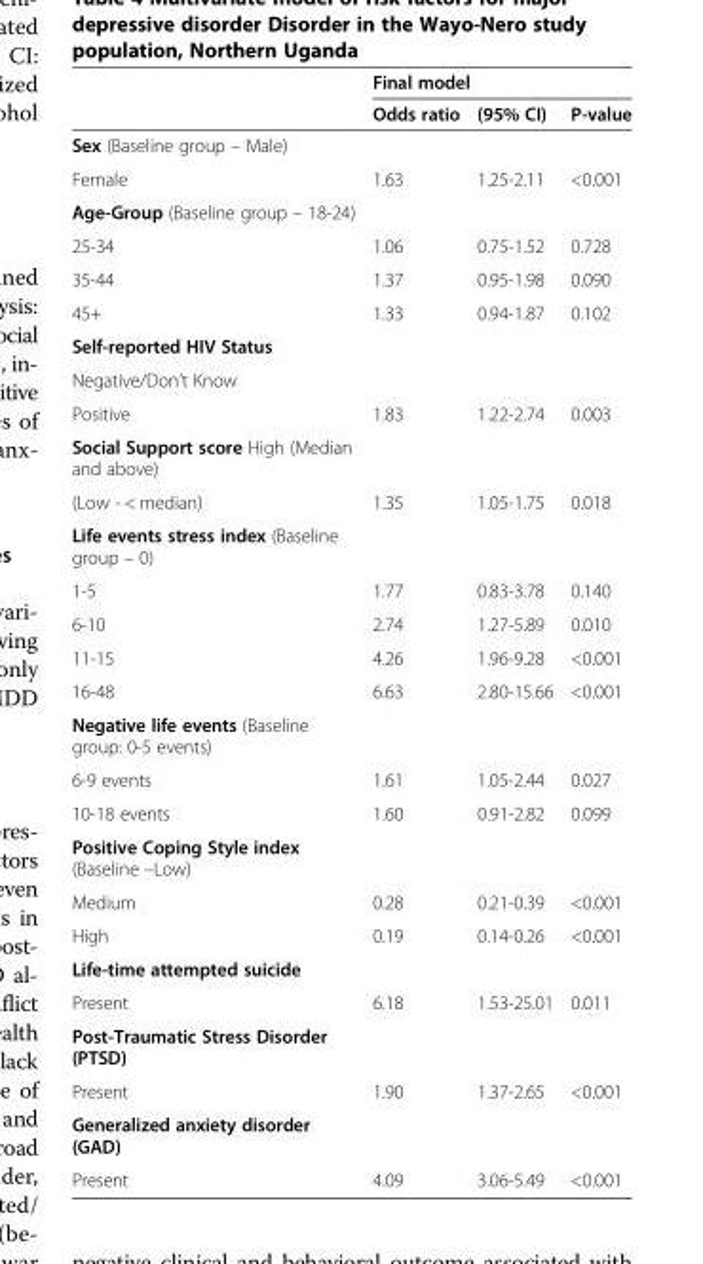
<table><thead><tr><td rowspan="2"></td><td colspan="3">Final model</td></tr><tr><td>Odds ratio</td><td>(95% CI)</td><td>P-value</td></tr></thead><tbody><tr><td colspan="4">Sex (Baseline group – Male)</td></tr><tr><td>Female</td><td>1.63</td><td>1.25-2.11</td><td>&lt;0.001</td></tr><tr><td colspan="4">Age-Group (Baseline group – 18-24)</td></tr><tr><td>25-34</td><td>1.06</td><td>0.75-1.52</td><td>0.728</td></tr><tr><td>35-44</td><td>1.37</td><td>0.95-1.98</td><td>0.090</td></tr><tr><td>45+</td><td>1.33</td><td>0.94-1.87</td><td>0.102</td></tr><tr><td colspan="4">Self-reported HIV Status</td></tr><tr><td colspan="4">Negative/Don’t Know</td></tr><tr><td>Positive</td><td>1.83</td><td>1.22-2.74</td><td>0.003</td></tr><tr><td colspan="4">Social Support score High (Median and above)</td></tr><tr><td>(Low - &lt; median)</td><td>1.35</td><td>1.05-1.75</td><td>0.018</td></tr><tr><td colspan="4">Life events stress index (Baseline group – 0)</td></tr><tr><td>1-5</td><td>1.77</td><td>0.83-3.78</td><td>0.140</td></tr><tr><td>6-10</td><td>2.74</td><td>1.27-5.89</td><td>0.010</td></tr><tr><td>11-15</td><td>4.26</td><td>1.96-9.28</td><td>&lt;0.001</td></tr><tr><td>16-48</td><td>6.63</td><td>2.80-15.66</td><td>&lt;0.001</td></tr><tr><td colspan="4">Negative life events (Baseline group: 0-5 events)</td></tr><tr><td>6-9 events</td><td>1.61</td><td>1.05-2.44</td><td>0.027</td></tr><tr><td>10-18 events</td><td>1.60</td><td>0.91-2.82</td><td>0.099</td></tr><tr><td colspan="4">Positive Coping Style index (Baseline –Low)</td></tr><tr><td>Medium</td><td>0.28</td><td>0.21-0.39</td><td>&lt;0.001</td></tr><tr><td>High</td><td>0.19</td><td>0.14-0.26</td><td>&lt;0.001</td></tr><tr><td colspan="4">Life-time attempted suicide</td></tr><tr><td>Present</td><td>6.18</td><td>1.53-25.01</td><td>0.011</td></tr><tr><td colspan="4">Post-Traumatic Stress Disorder (PTSD)</td></tr><tr><td>Present</td><td>1.90</td><td>1.37-2.65</td><td>&lt;0.001</td></tr><tr><td colspan="4">Generalized anxiety disorder (GAD)</td></tr><tr><td>Present</td><td>4.09</td><td>3.06-5.49</td><td>&lt;0.001</td></tr></tbody></table>